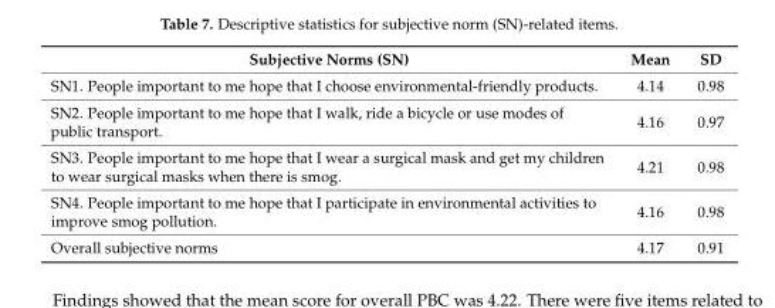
<table><thead><tr><td>Subjective Norms (SN)</td><td>Mean</td><td>SD</td></tr></thead><tbody><tr><td>SN1. People important to me hope that I choose environmental-friendly products.</td><td>4.14</td><td>0.98</td></tr><tr><td>SN2. People important to me hope that I walk, ride a bicycle or use modes of public transport.</td><td>4.16</td><td>0.97</td></tr><tr><td>SN3. People important to me hope that I wear a surgical mask and get my children to wear surgical masks when there is smog.</td><td>4.21</td><td>0.98</td></tr><tr><td>SN4. People important to me hope that I participate in environmental activities to improve smog pollution.</td><td>4.16</td><td>0.98</td></tr><tr><td>Overall subjective norms</td><td>4.17</td><td>0.91</td></tr></tbody></table>